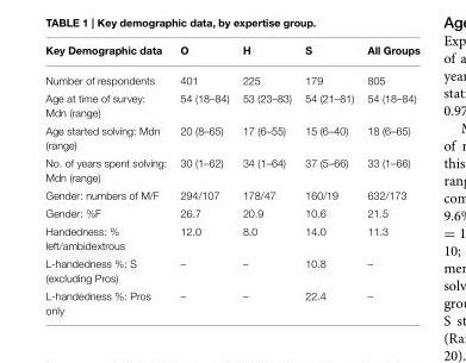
<table><thead><tr><td>Key Demographic data</td><td>O</td><td>H</td><td>S</td><td>All Groups</td></tr></thead><tbody><tr><td>Number of respondents</td><td>401</td><td>225</td><td>179</td><td>805</td></tr><tr><td>Age at time of survey: Mdn (range)</td><td>54 (18–84)</td><td>53 (23–83)</td><td>54 (21–81)</td><td>54 (18–84)</td></tr><tr><td>Age started solving: Mdn (range)</td><td>20 (8–65)</td><td>17 (6–55)</td><td>15 (6–40)</td><td>18 (6–65)</td></tr><tr><td>No. of years spent solving: Mdn (range)</td><td>30 (1–62)</td><td>34 (1–64)</td><td>37 (5–66)</td><td>33 (1–66)</td></tr><tr><td>Gender: numbers of M/F</td><td>294/107</td><td>178/47</td><td>160/19</td><td>632/173</td></tr><tr><td>Gender: %F</td><td>26.7</td><td>20.9</td><td>10.6</td><td>21.5</td></tr><tr><td>Handedness: % left/ambidextrous</td><td>12.0</td><td>8.0</td><td>14.0</td><td>11.3</td></tr><tr><td>L-handedness %: S (excluding Pros)</td><td>–</td><td>–</td><td>10.8</td><td>–</td></tr><tr><td>L-handedness %: Pros only</td><td>–</td><td>–</td><td>22.4</td><td>–</td></tr></tbody></table>